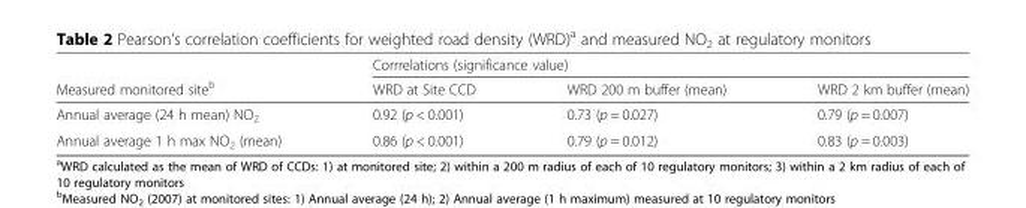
<table><thead><tr><td rowspan="2">Measured monitored site<sup>b</sup></td><td colspan="3">Corrrelations (significance value)</td></tr><tr><td>WRD at Site CCD</td><td>WRD 200 m buffer (mean)</td><td>WRD 2 km buffer (mean)</td></tr></thead><tbody><tr><td>Annual average (24 h mean) NO<sub>2</sub></td><td>0.92 (p &lt; 0.001)</td><td>0.73 (p = 0.027)</td><td>0.79 (p = 0.007)</td></tr><tr><td>Annual average 1 h max NO<sub>2</sub> (mean)</td><td>0.86 (p &lt; 0.001)</td><td>0.79 (p = 0.012)</td><td>0.83 (p = 0.003)</td></tr></tbody></table>